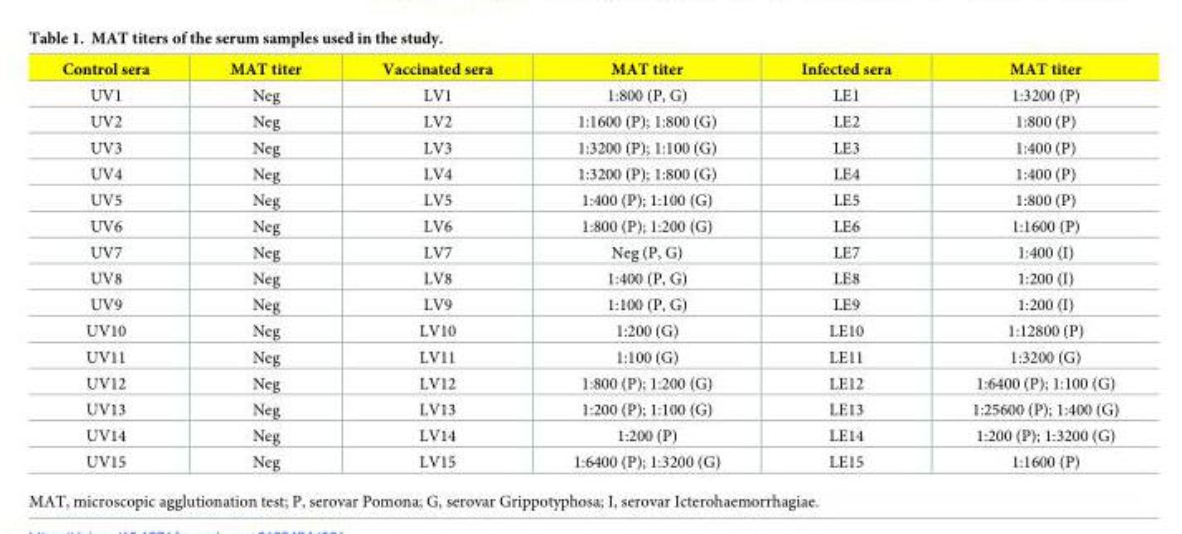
<table><thead><tr><td>Control sera</td><td>MAT titer</td><td>Vaccinated sera</td><td>MAT titer</td><td>Infected sera</td><td>MAT titer</td></tr></thead><tbody><tr><td>UV1</td><td>Neg</td><td>LV1</td><td>1:800 (P, G)</td><td>LE1</td><td>1:3200 (P)</td></tr><tr><td>UV2</td><td>Neg</td><td>LV2</td><td>1:1600 (P); 1:800 (G)</td><td>LE2</td><td>1:800 (P)</td></tr><tr><td>UV3</td><td>Neg</td><td>LV3</td><td>1:3200 (P); 1:100 (G)</td><td>LE3</td><td>1:400 (P)</td></tr><tr><td>UV4</td><td>Neg</td><td>LV4</td><td>1:3200 (P); 1:800 (G)</td><td>LE4</td><td>1:400 (P)</td></tr><tr><td>UV5</td><td>Neg</td><td>LV5</td><td>1:400 (P); 1:100 (G)</td><td>LE5</td><td>1:800 (P)</td></tr><tr><td>UV6</td><td>Neg</td><td>LV6</td><td>1:800 (P); 1:200 (G)</td><td>LE6</td><td>1:1600 (P)</td></tr><tr><td>UV7</td><td>Neg</td><td>LV7</td><td>Neg (P, G)</td><td>LE7</td><td>1:400 (I)</td></tr><tr><td>UV8</td><td>Neg</td><td>LV8</td><td>1:400 (P, G)</td><td>LE8</td><td>1:200 (I)</td></tr><tr><td>UV9</td><td>Neg</td><td>LV9</td><td>1:100 (P, G)</td><td>LE9</td><td>1:200 (I)</td></tr><tr><td>UV10</td><td>Neg</td><td>LV10</td><td>1:200 (G)</td><td>LE10</td><td>1:12800 (P)</td></tr><tr><td>UV11</td><td>Neg</td><td>LV11</td><td>1:100 (G)</td><td>LE11</td><td>1:3200 (G)</td></tr><tr><td>UV12</td><td>Neg</td><td>LV12</td><td>1:800 (P); 1:200 (G)</td><td>LE12</td><td>1:6400 (P); 1:100 (G)</td></tr><tr><td>UV13</td><td>Neg</td><td>LV13</td><td>1:200 (P); 1:100 (G)</td><td>LE13</td><td>1:25600 (P); 1:400 (G)</td></tr><tr><td>UV14</td><td>Neg</td><td>LV14</td><td>1:200 (P)</td><td>LE14</td><td>1:200 (P); 1:3200 (G)</td></tr><tr><td>UV15</td><td>Neg</td><td>LV15</td><td>1:6400 (P); 1:3200 (G)</td><td>LE15</td><td>1:1600 (P)</td></tr></tbody></table>